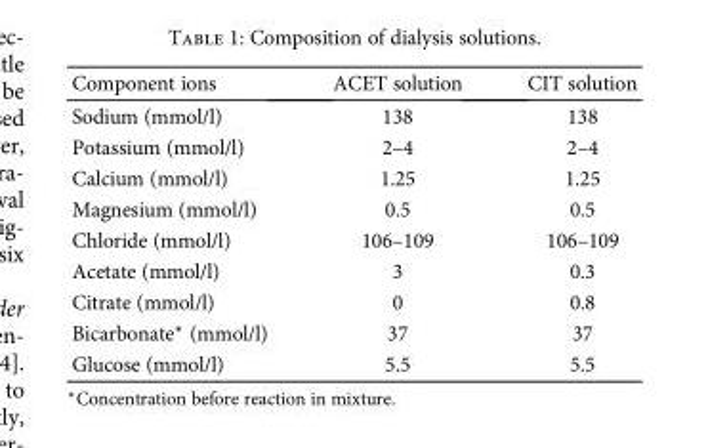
<table><thead><tr><td>Component ions</td><td>ACET solution</td><td>CIT solution</td></tr></thead><tbody><tr><td>Sodium (mmol/l)</td><td>138</td><td>138</td></tr><tr><td>Potassium (mmol/l)</td><td>2–4</td><td>2–4</td></tr><tr><td>Calcium (mmol/l)</td><td>1.25</td><td>1.25</td></tr><tr><td>Magnesium (mmol/l)</td><td>0.5</td><td>0.5</td></tr><tr><td>Chloride (mmol/l)</td><td>106–109</td><td>106–109</td></tr><tr><td>Acetate (mmol/l)</td><td>3</td><td>0.3</td></tr><tr><td>Citrate (mmol/l)</td><td>0</td><td>0.8</td></tr><tr><td>Bicarbonate∗ (mmol/l)</td><td>37</td><td>37</td></tr><tr><td>Glucose (mmol/l)</td><td>5.5</td><td>5.5</td></tr></tbody></table>